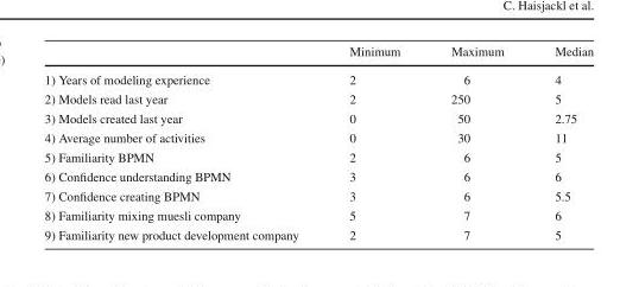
<table><thead><tr><td></td><td>Minimum</td><td>Maximum</td><td>Median</td></tr></thead><tbody><tr><td>1) Years of modeling experience</td><td>2</td><td>6</td><td>4</td></tr><tr><td>2) Models read last year</td><td>2</td><td>250</td><td>5</td></tr><tr><td>3) Models created last year</td><td>0</td><td>50</td><td>2.75</td></tr><tr><td>4) Average number of activities</td><td>0</td><td>30</td><td>11</td></tr><tr><td>5) Familiarity BPMN</td><td>2</td><td>6</td><td>5</td></tr><tr><td>6) Confidence understanding BPMN</td><td>3</td><td>6</td><td>6</td></tr><tr><td>7) Confidence creating BPMN</td><td>3</td><td>6</td><td>5.5</td></tr><tr><td>8) Familiarity mixing muesli company</td><td>5</td><td>7</td><td>6</td></tr><tr><td>9) Familiarity new product development company</td><td>2</td><td>7</td><td>5</td></tr></tbody></table>